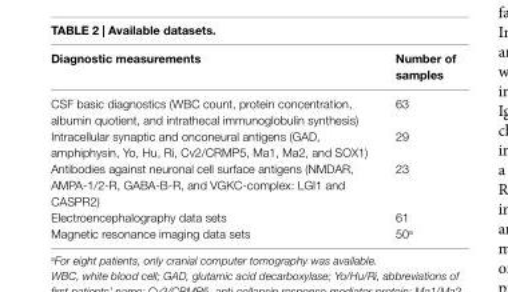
<table><thead><tr><td>Diagnostic measurements</td><td>number of samples</td></tr></thead><tbody><tr><td>CSF basic diagnostics (WBC count, protein concentration, albumin quotient, and intrathecal immunoglobulin synthesis)</td><td>63</td></tr><tr><td>Intracellular synaptic and onconeural antigens (GAD, amphiphysin, Yo, Hu, Ri, Cv2/CRMP5, Ma1, Ma2, and SOX1)</td><td>29</td></tr><tr><td>Antibodies against neuronal cell surface antigens (NMDAR, AMPA-1/2-R, GABA-B-R, and VGKC-complex: LGI1 and CASPR2)</td><td>23</td></tr><tr><td>Electroencephalography data sets</td><td>61</td></tr><tr><td>Magnetic resonance imaging data sets</td><td>50<sup>a</sup></td></tr></tbody></table>